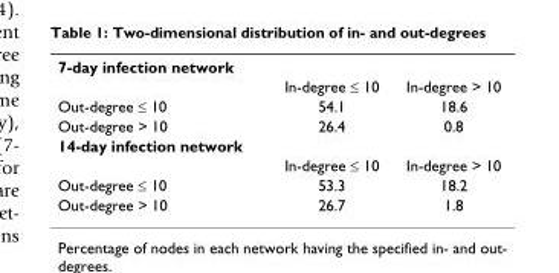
<table><tbody><tr><td colspan="3">7-day infection network</td></tr><tr><td></td><td>In-degree ≤ 10</td><td>In-degree &gt; 10</td></tr><tr><td>Out-degree ≤ 10</td><td>54.1</td><td>18.6</td></tr><tr><td>Out-degree &gt; 10</td><td>26.4</td><td>0.8</td></tr><tr><td colspan="3">14-day infection network</td></tr><tr><td></td><td>In-degree ≤ 10</td><td>In-degree &gt; 10</td></tr><tr><td>Out-degree ≤ 10</td><td>53.3</td><td>18.2</td></tr><tr><td>Out-degree &gt; 10</td><td>26.7</td><td>1.8</td></tr></tbody></table>